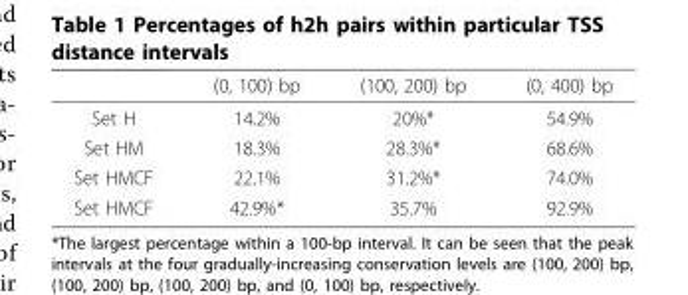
<table><thead><tr><td></td><td>(0, 100) bp</td><td>(100, 200) bp</td><td>(0, 400) bp</td></tr></thead><tbody><tr><td>Set H</td><td>14.2%</td><td>20%*</td><td>54.9%</td></tr><tr><td>Set HM</td><td>18.3%</td><td>28.3%*</td><td>68.6%</td></tr><tr><td>Set HMCF</td><td>22.1%</td><td>31.2%*</td><td>74.0%</td></tr><tr><td>Set HMCF</td><td>42.9%*</td><td>35.7%</td><td>92.9%</td></tr></tbody></table>